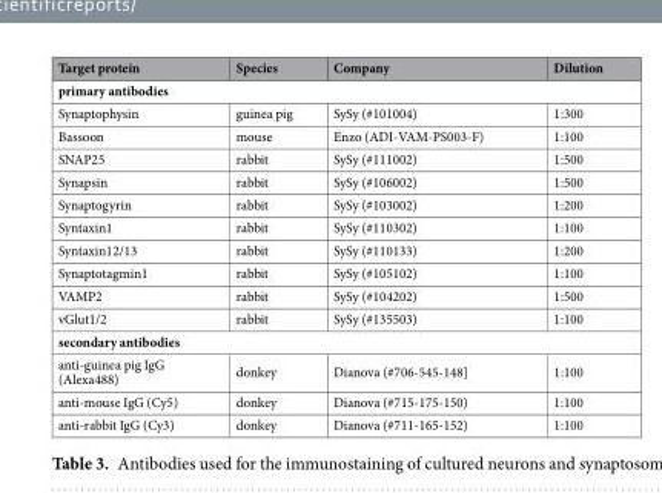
<table><thead><tr><td>Target protein</td><td>Species</td><td>Company</td><td>Dilution</td></tr></thead><tbody><tr><td colspan="4">primary antibodies</td></tr><tr><td>Synaptophysin</td><td>guinea pig</td><td>SySy (#101004)</td><td>1:300</td></tr><tr><td>Bassoon</td><td>mouse</td><td>Enzo (ADI-VAM-PS003-F)</td><td>1:100</td></tr><tr><td>SNAP25</td><td>rabbit</td><td>SySy (#111002)</td><td>1:500</td></tr><tr><td>Synapsin</td><td>rabbit</td><td>SySy (#106002)</td><td>1:500</td></tr><tr><td>Synaptogyrin</td><td>rabbit</td><td>SySy (#103002)</td><td>1:200</td></tr><tr><td>Syntaxin1</td><td>rabbit</td><td>SySy (#110302)</td><td>1:100</td></tr><tr><td>Syntaxin12/13</td><td>rabbit</td><td>SySy (#110133)</td><td>1:200</td></tr><tr><td>Synaptotagmin1</td><td>rabbit</td><td>SySy (#105102)</td><td>1:100</td></tr><tr><td>VAMP2</td><td>rabbit</td><td>SySy (#104202)</td><td>1:500</td></tr><tr><td>vGlut1/2</td><td>rabbit</td><td>SySy (#135503)</td><td>1:100</td></tr><tr><td colspan="4">secondary antibodies</td></tr><tr><td>anti-guinea pig IgG (Alexa488)</td><td>donkey</td><td>Dianova (#706-545-148]</td><td>1:100</td></tr><tr><td>anti-mouse IgG (Cy5)</td><td>donkey</td><td>Dianova (#715-175-150)</td><td>1:100</td></tr><tr><td>anti-rabbit IgG (Cy3)</td><td>donkey</td><td>Dianova (#711-165-152)</td><td>1:100</td></tr></tbody></table>